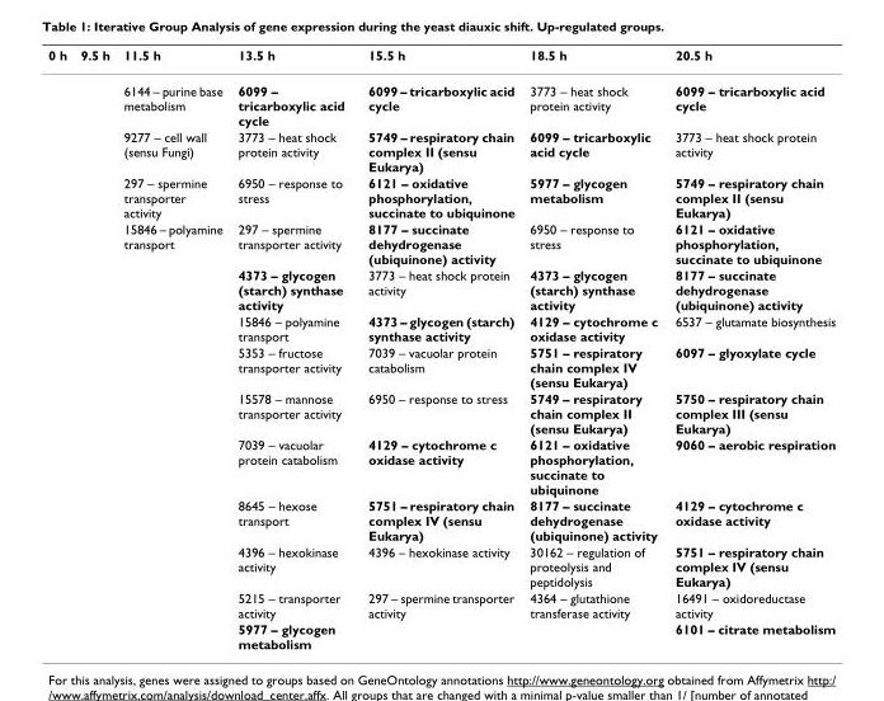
<table><thead><tr><td>0 h</td><td>9.5 h</td><td>11.5 h</td><td>13.5 h</td><td>15.5 h</td><td>18.5 h</td><td>20.5 h</td></tr></thead><tbody><tr><td></td><td></td><td>6144 – purine base metabolism</td><td>6099 – tricarboxylic acid cycle</td><td>6099 – tricarboxylic acid cycle</td><td>3773 – heat shock protein activity</td><td>6099 – tricarboxylic acid cycle</td></tr><tr><td></td><td></td><td>9277 – cell wall (sensu Fungi)</td><td>3773 – heat shock protein activity</td><td>5749 – respiratory chain complex II (sensu Eukarya)</td><td>6099 – tricarboxylic acid cycle</td><td>3773 – heat shock protein activity</td></tr><tr><td></td><td></td><td>297 – spermine transporter activity</td><td>6950 – response to stress</td><td>6121 – oxidative phosphorylation, succinate to ubiquinone</td><td>5977 – glycogen metabolism</td><td>5749 – respiratory chain complex II (sensu Eukarya)</td></tr><tr><td></td><td></td><td>15846 – polyamine transport</td><td>297 – spermine transporter activity</td><td>8177 – succinate dehydrogenase (ubiquinone) activity</td><td>6950 – response to stress</td><td>6121 – oxidative phosphorylation, succinate to ubiquinone</td></tr><tr><td></td><td></td><td></td><td>4373 – glycogen (starch) synthase activity</td><td>3773 – heat shock protein activity</td><td>4373 – glycogen (starch) synthase activity</td><td>8177 – succinate dehydrogenase (ubiquinone) activity</td></tr><tr><td></td><td></td><td></td><td>15846 – polyamine transport</td><td>4373 – glycogen (starch) synthase activity</td><td>4129 – cytochrome c oxidase activity</td><td>6537 – glutamate biosynthesis</td></tr><tr><td></td><td></td><td></td><td>5353 – fructose transporter activity</td><td>7039 – vacuolar protein catabolism</td><td>5751 – respiratory chain complex IV (sensu Eukarya)</td><td>6097 – glyoxylate cycle</td></tr><tr><td></td><td></td><td></td><td>15578 – mannose transporter activity</td><td>6950 – response to stress</td><td>5749 – respiratory chain complex II (sensu Eukarya)</td><td>5750 – respiratory chain complex III (sensu Eukarya)</td></tr><tr><td></td><td></td><td></td><td>7039 – vacuolar protein catabolism</td><td>4129 – cytochrome c oxidase activity</td><td>6121 – oxidative phosphorylation, succinate to ubiquinone</td><td>9060 – aerobic respiration</td></tr><tr><td></td><td></td><td></td><td>8645 – hexose transport</td><td>5751 – respiratory chain complex IV (sensu Eukarya)</td><td>8177 – succinate dehydrogenase (ubiquinone) activity</td><td>4129 – cytochrome c oxidase activity</td></tr><tr><td></td><td></td><td></td><td>4396 – hexokinase activity</td><td>4396 – hexokinase activity</td><td>30162 – regulation of proteolysis and peptidolysis</td><td>5751 – respiratory chain complex IV (sensu Eukarya)</td></tr><tr><td></td><td></td><td></td><td>5215 – transporter activity</td><td>297 – spermine transporter activity</td><td>4364 – glutathione transferase activity</td><td>16491 – oxidoreductase activity</td></tr><tr><td></td><td></td><td></td><td>5977 – glycogen metabolism</td><td></td><td></td><td>6101 – citrate metabolism</td></tr></tbody></table>